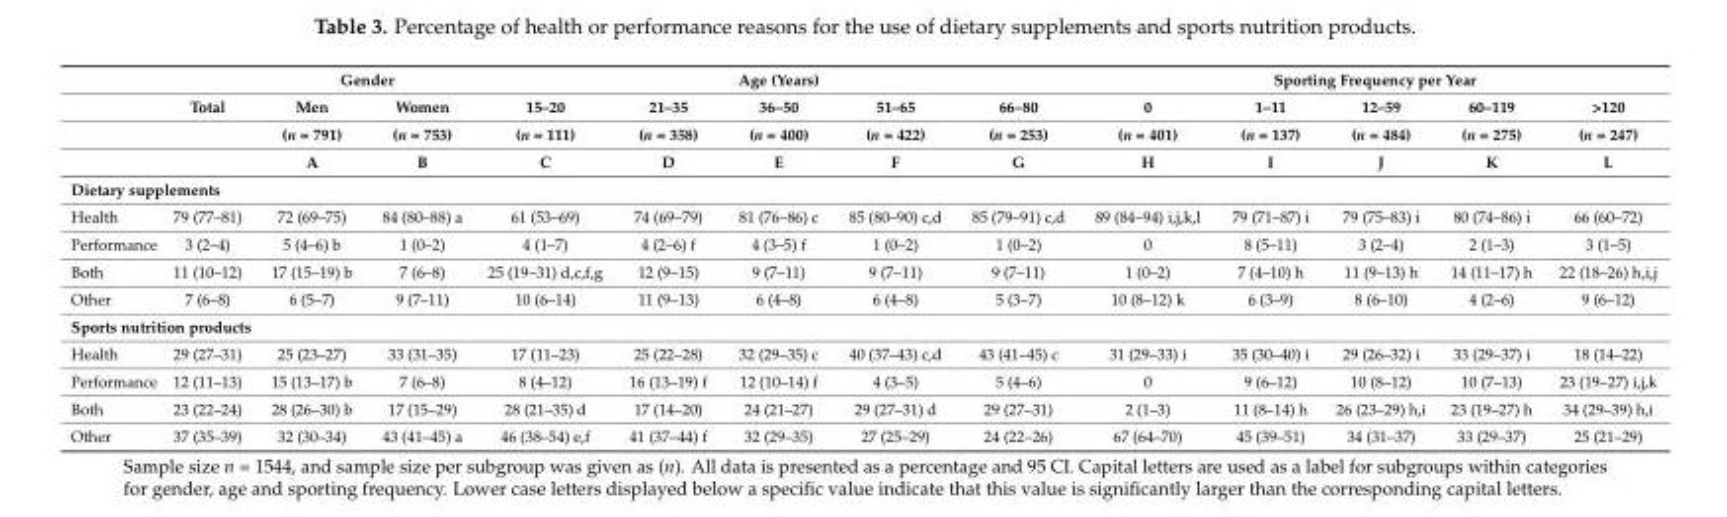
<table><thead><tr><td rowspan="4"></td><td rowspan="4">Total</td><td colspan="2">Gender</td><td colspan="5">Age (Years)</td><td colspan="5">Sporting Frequency per Year</td></tr><tr><td rowspan="3">Men (n = 791) A</td><td rowspan="3">Women (n = 753) B</td><td rowspan="3">15–20 (n = 111) C</td><td rowspan="3">21–35 (n = 358) D</td><td rowspan="3">36–50 (n = 400) E</td><td rowspan="3">51–65 (n = 422) F</td><td rowspan="3">66–80 (n = 253) G</td><td rowspan="3">0 (n = 401) H</td><td rowspan="3">1–11 (n = 137) I</td><td rowspan="3">12–59 (n = 484) J</td><td rowspan="3">60–119 (n = 275) K</td><td rowspan="3">&gt;120 (n = 247) L</td></tr><tr></tr><tr></tr></thead><tbody><tr><td colspan="14">Dietary supplements</td></tr><tr><td>Health</td><td>79 (77–81)</td><td>72 (69–75)</td><td>84 (80–88) a</td><td>61 (53–69)</td><td>74 (69–79)</td><td>81 (76–86) c</td><td>85 (80–90) c,d</td><td>85 (79–91) c,d</td><td>89 (84–94) i,j,k,l</td><td>79 (71–87) i</td><td>79 (75–83) i</td><td>80 (74–86) i</td><td>66 (60–72)</td></tr><tr><td>Performance</td><td>3 (2–4)</td><td>5 (4–6) b</td><td>1 (0–2)</td><td>4 (1–7)</td><td>4 (2–6) f</td><td>4 (3–5) f</td><td>1 (0–2)</td><td>1 (0–2)</td><td>0</td><td>8 (5–11)</td><td>3 (2–4)</td><td>2 (1–3)</td><td>3 (1–5)</td></tr><tr><td>Both</td><td>11 (10–12)</td><td>17 (15–19) b</td><td>7 (6–8)</td><td>25 (19–31) d,c,f,g</td><td>12 (9–15)</td><td>9 (7–11)</td><td>9 (7–11)</td><td>9 (7–11)</td><td>1 (0–2)</td><td>7 (4–10) h</td><td>11 (9–13) h</td><td>14 (11–17) h</td><td>22 (18–26) h,i,j</td></tr><tr><td>Other</td><td>7 (6–8)</td><td>6 (5–7)</td><td>9 (7–11)</td><td>10 (6–14)</td><td>11 (9–13)</td><td>6 (4–8)</td><td>6 (4–8)</td><td>5 (3–7)</td><td>10 (8–12) k</td><td>6 (3–9)</td><td>8 (6–10)</td><td>4 (2–6)</td><td>9 (6–12)</td></tr><tr><td colspan="14">Sports nutrition products</td></tr><tr><td>Health</td><td>29 (27–31)</td><td>25 (23–27)</td><td>33 (31–35)</td><td>17 (11–23)</td><td>25 (22–28)</td><td>32 (29–35) c</td><td>40 (37–43) c,d</td><td>43 (41–45) c</td><td>31 (29–33) i</td><td>35 (30–40) i</td><td>29 (26–32) i</td><td>33 (29–37) i</td><td>18 (14–22)</td></tr><tr><td>Performance</td><td>12 (11–13)</td><td>15 (13–17) b</td><td>7 (6–8)</td><td>8 (4–12)</td><td>16 (13–19) f</td><td>12 (10–14) f</td><td>4 (3–5)</td><td>5 (4–6)</td><td>0</td><td>9 (6–12)</td><td>10 (8–12)</td><td>10 (7–13)</td><td>23 (19–27) i,j,k</td></tr><tr><td>Both</td><td>23 (22–24)</td><td>28 (26–30) b</td><td>17 (15–29)</td><td>28 (21–35) d</td><td>17 (14–20)</td><td>24 (21–27)</td><td>29 (27–31) d</td><td>29 (27–31)</td><td>2 (1–3)</td><td>11 (8–14) h</td><td>26 (23–29) h,i</td><td>23 (19–27) h</td><td>34 (29–39) h,i</td></tr><tr><td>Other</td><td>37 (35–39)</td><td>32 (30–34)</td><td>43 (41–45) a</td><td>46 (38–54) e,f</td><td>41 (37–44) f</td><td>32 (29–35)</td><td>27 (25–29)</td><td>24 (22–26)</td><td>67 (64–70)</td><td>45 (39–51)</td><td>34 (31–37)</td><td>33 (29–37)</td><td>25 (21–29)</td></tr></tbody></table>